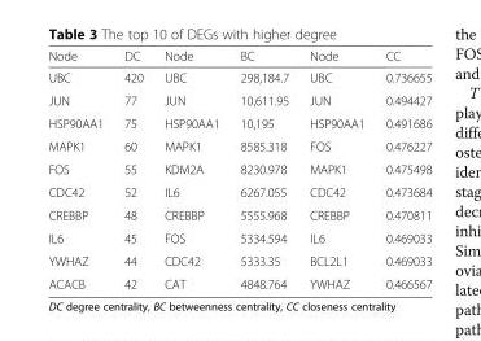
<table><thead><tr><td>Node</td><td>DC</td><td>Node</td><td>BC</td><td>Node</td><td>CC</td></tr></thead><tbody><tr><td>UBC</td><td>420</td><td>UBC</td><td>298,184.7</td><td>UBC</td><td>0.736655</td></tr><tr><td>JUN</td><td>77</td><td>JUN</td><td>10,611.95</td><td>JUN</td><td>0.494427</td></tr><tr><td>HSP90AA1</td><td>75</td><td>HSP90AA1</td><td>10,195</td><td>HSP90AA1</td><td>0.491686</td></tr><tr><td>MAPK1</td><td>60</td><td>MAPK1</td><td>8585.318</td><td>FOS</td><td>0.476227</td></tr><tr><td>FOS</td><td>55</td><td>KDM2A</td><td>8230.978</td><td>MAPK1</td><td>0.475498</td></tr><tr><td>CDC42</td><td>52</td><td>IL6</td><td>6267.055</td><td>CDC42</td><td>0.473684</td></tr><tr><td>CREBBP</td><td>48</td><td>CREBBP</td><td>5555.968</td><td>CREBBP</td><td>0.470811</td></tr><tr><td>IL6</td><td>45</td><td>FOS</td><td>5334.594</td><td>IL6</td><td>0.469033</td></tr><tr><td>YWHAZ</td><td>44</td><td>CDC42</td><td>5333.35</td><td>BCL2L1</td><td>0.469033</td></tr><tr><td>ACACB</td><td>42</td><td>CAT</td><td>4848.764</td><td>YWHAZ</td><td>0.466567</td></tr></tbody></table>